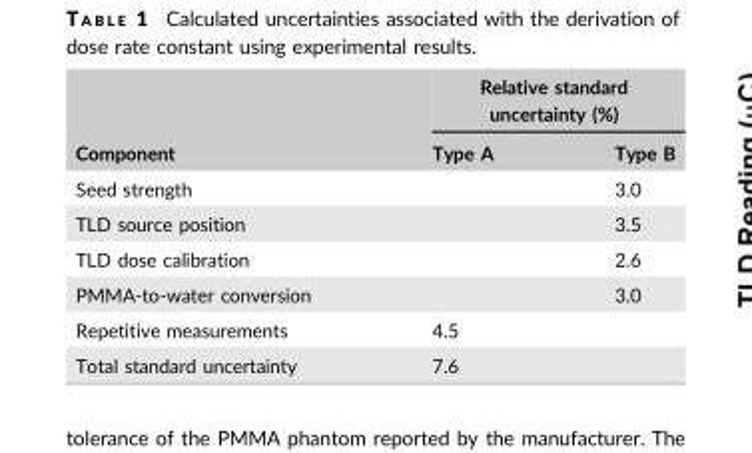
<table><thead><tr><td rowspan="2">Component</td><td colspan="2">Relative standard uncertainty (%)</td></tr><tr><td>Type A</td><td>Type B</td></tr></thead><tbody><tr><td>Seed strength</td><td></td><td>3.0</td></tr><tr><td>TLD source position</td><td></td><td>3.5</td></tr><tr><td>TLD dose calibration</td><td></td><td>2.6</td></tr><tr><td>PMMA-to-water conversion</td><td></td><td>3.0</td></tr><tr><td>Repetitive measurements</td><td>4.5</td><td></td></tr><tr><td>Total standard uncertainty</td><td>7.6</td><td></td></tr></tbody></table>